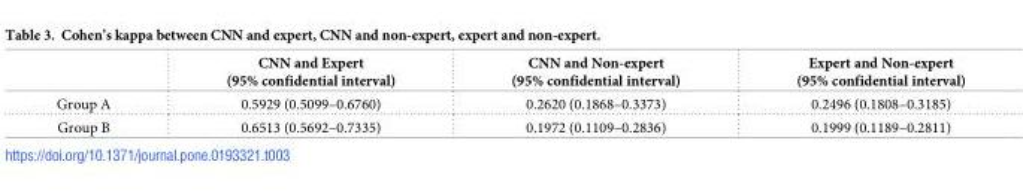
<table><thead><tr><td></td><td>CNN and Expert (95% confidential interval)</td><td>CNN and Non-expert (95% confidential interval)</td><td>Expert and Non-expert (95% confidential interval)</td></tr></thead><tbody><tr><td>Group A</td><td>0.5929 (0.5099–0.6760)</td><td>0.2620 (0.1868–0.3373)</td><td>0.2496 (0.1808–0.3185)</td></tr><tr><td>Group B</td><td>0.6513 (0.5692–0.7335)</td><td>0.1972 (0.1109–0.2836)</td><td>0.1999 (0.1189–0.2811)</td></tr></tbody></table>